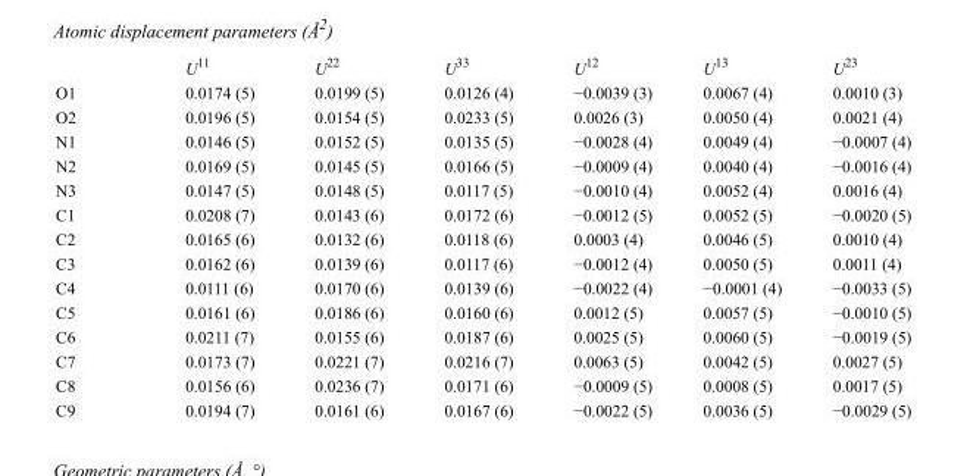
<table><thead><tr><td></td><td>U<sup>11</sup></td><td>U<sup>22</sup></td><td>U<sup>33</sup></td><td>U<sup>12</sup></td><td>U<sup>13</sup></td><td>U<sup>23</sup></td></tr></thead><tbody><tr><td>O1</td><td>0.0174 (5)</td><td>0.0199 (5)</td><td>0.0126 (4)</td><td>−0.0039 (3)</td><td>0.0067 (4)</td><td>0.0010 (3)</td></tr><tr><td>O2</td><td>0.0196 (5)</td><td>0.0154 (5)</td><td>0.0233 (5)</td><td>0.0026 (3)</td><td>0.0050 (4)</td><td>0.0021 (4)</td></tr><tr><td>N1</td><td>0.0146 (5)</td><td>0.0152 (5)</td><td>0.0135 (5)</td><td>−0.0028 (4)</td><td>0.0049 (4)</td><td>−0.0007 (4)</td></tr><tr><td>N2</td><td>0.0169 (5)</td><td>0.0145 (5)</td><td>0.0166 (5)</td><td>−0.0009 (4)</td><td>0.0040 (4)</td><td>−0.0016 (4)</td></tr><tr><td>N3</td><td>0.0147 (5)</td><td>0.0148 (5)</td><td>0.0117 (5)</td><td>−0.0010 (4)</td><td>0.0052 (4)</td><td>0.0016 (4)</td></tr><tr><td>C1</td><td>0.0208 (7)</td><td>0.0143 (6)</td><td>0.0172 (6)</td><td>−0.0012 (5)</td><td>0.0052 (5)</td><td>−0.0020 (5)</td></tr><tr><td>C2</td><td>0.0165 (6)</td><td>0.0132 (6)</td><td>0.0118 (6)</td><td>0.0003 (4)</td><td>0.0046 (5)</td><td>0.0010 (4)</td></tr><tr><td>C3</td><td>0.0162 (6)</td><td>0.0139 (6)</td><td>0.0117 (6)</td><td>−0.0012 (4)</td><td>0.0050 (5)</td><td>0.0011 (4)</td></tr><tr><td>C4</td><td>0.0111 (6)</td><td>0.0170 (6)</td><td>0.0139 (6)</td><td>−0.0022 (4)</td><td>−0.0001 (4)</td><td>−0.0033 (5)</td></tr><tr><td>C5</td><td>0.0161 (6)</td><td>0.0186 (6)</td><td>0.0160 (6)</td><td>0.0012 (5)</td><td>0.0057 (5)</td><td>−0.0010 (5)</td></tr><tr><td>C6</td><td>0.0211 (7)</td><td>0.0155 (6)</td><td>0.0187 (6)</td><td>0.0025 (5)</td><td>0.0060 (5)</td><td>−0.0019 (5)</td></tr><tr><td>C7</td><td>0.0173 (7)</td><td>0.0221 (7)</td><td>0.0216 (7)</td><td>0.0063 (5)</td><td>0.0042 (5)</td><td>0.0027 (5)</td></tr><tr><td>C8</td><td>0.0156 (6)</td><td>0.0236 (7)</td><td>0.0171 (6)</td><td>−0.0009 (5)</td><td>0.0008 (5)</td><td>0.0017 (5)</td></tr><tr><td>C9</td><td>0.0194 (7)</td><td>0.0161 (6)</td><td>0.0167 (6)</td><td>−0.0022 (5)</td><td>0.0036 (5)</td><td>−0.0029 (5)</td></tr></tbody></table>